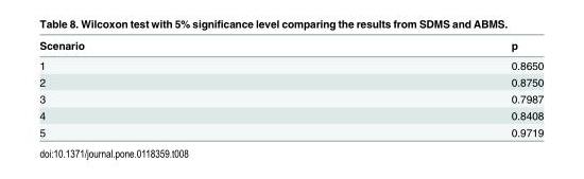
<table><thead><tr><td>Scenario</td><td>p</td></tr></thead><tbody><tr><td>1</td><td>0.8650</td></tr><tr><td>2</td><td>0.8750</td></tr><tr><td>3</td><td>0.7987</td></tr><tr><td>4</td><td>0.8408</td></tr><tr><td>5</td><td>0.9719</td></tr></tbody></table>